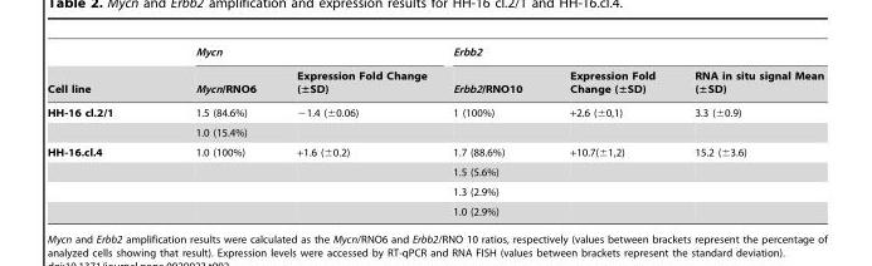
<table><thead><tr><td rowspan="2">Cell line</td><td colspan="2">Mycn</td><td colspan="3">Erbb2</td></tr><tr><td>Mycn/RNO6</td><td>Expression Fold Change (±SD)</td><td>Erbb2/RNO10</td><td>Expression Fold Change (±SD)</td><td>RNA in situ signal Mean (±SD)</td></tr></thead><tbody><tr><td rowspan="2">HH-16 cl.2/1</td><td>1.5 (84.6%)</td><td>−1.4 (±0.06)</td><td>1 (100%)</td><td>+2.6 (±0,1)</td><td>3.3 (±0.9)</td></tr><tr><td>1.0 (15.4%)</td><td></td><td></td><td></td><td></td></tr><tr><td rowspan="4">HH-16.cl.4</td><td>1.0 (100%)</td><td>+1.6 (±0.2)</td><td>1.7 (88.6%)</td><td>+10.7(±1,2)</td><td>15.2 (±3.6)</td></tr><tr><td></td><td></td><td>1.5 (5.6%)</td><td></td><td></td></tr><tr><td></td><td></td><td>1.3 (2.9%)</td><td></td><td></td></tr><tr><td></td><td></td><td>1.0 (2.9%)</td><td></td><td></td></tr></tbody></table>